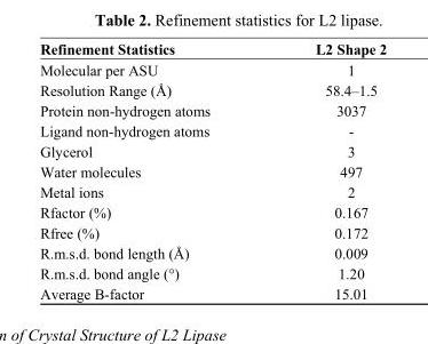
<table><thead><tr><td>Refinement Statistics</td><td>L2 Shape 2</td></tr></thead><tbody><tr><td>Molecular per ASU</td><td>1</td></tr><tr><td>Resolution Range (Å)</td><td>58.4–1.5</td></tr><tr><td>Protein non-hydrogen atoms</td><td>3037</td></tr><tr><td>Ligand non-hydrogen atoms</td><td>-</td></tr><tr><td>Glycerol</td><td>3</td></tr><tr><td>Water molecules</td><td>497</td></tr><tr><td>Metal ions</td><td>2</td></tr><tr><td>Rfactor (%)</td><td>0.167</td></tr><tr><td>Rfree (%)</td><td>0.172</td></tr><tr><td>R.m.s.d. bond length (Å)</td><td>0.009</td></tr><tr><td>R.m.s.d. bond angle (°)</td><td>1.20</td></tr><tr><td>Average B-factor</td><td>15.01</td></tr></tbody></table>